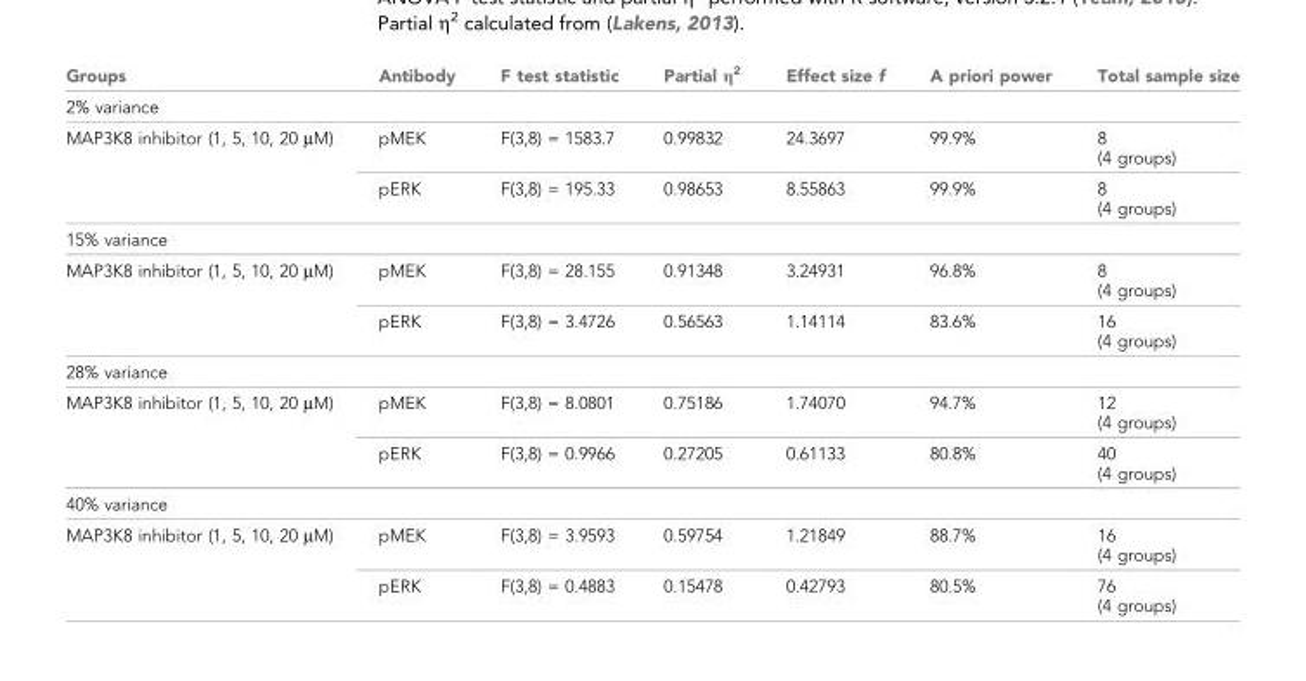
<table><thead><tr><td>Groups</td><td>Antibody</td><td>F test statistic</td><td>Partial η<sup>2</sup></td><td>Effect size f</td><td>A priori power</td><td>Total sample size</td></tr></thead><tbody><tr><td colspan="7">2% variance</td></tr><tr><td rowspan="2">MAP3K8 inhibitor (1, 5, 10, 20 µM)</td><td>pMEK</td><td>F(3,8) = 1583.7</td><td>0.99832</td><td>24.3697</td><td>99.9%</td><td>8 (4 groups)</td></tr><tr><td>pERK</td><td>F(3,8) = 195.33</td><td>0.98653</td><td>8.55863</td><td>99.9%</td><td>8 (4 groups)</td></tr><tr><td colspan="7">15% variance</td></tr><tr><td rowspan="2">MAP3K8 inhibitor (1, 5, 10, 20 µM)</td><td>pMEK</td><td>F(3,8) = 28.155</td><td>0.91348</td><td>3.24931</td><td>96.8%</td><td>8 (4 groups)</td></tr><tr><td>pERK</td><td>F(3,8) = 3.4726</td><td>0.56563</td><td>1.14114</td><td>83.6%</td><td>16 (4 groups)</td></tr><tr><td colspan="7">28% variance</td></tr><tr><td rowspan="2">MAP3K8 inhibitor (1, 5, 10, 20 µM)</td><td>pMEK</td><td>F(3,8) = 8.0801</td><td>0.75186</td><td>1.74070</td><td>94.7%</td><td>12 (4 groups)</td></tr><tr><td>pERK</td><td>F(3,8) = 0.9966</td><td>0.27205</td><td>0.61133</td><td>80.8%</td><td>40 (4 groups)</td></tr><tr><td colspan="7">40% variance</td></tr><tr><td rowspan="2">MAP3K8 inhibitor (1, 5, 10, 20 µM)</td><td>pMEK</td><td>F(3,8) = 3.9593</td><td>0.59754</td><td>1.21849</td><td>88.7%</td><td>16 (4 groups)</td></tr><tr><td>pERK</td><td>F(3,8) = 0.4883</td><td>0.15478</td><td>0.42793</td><td>80.5%</td><td>76 (4 groups)</td></tr></tbody></table>